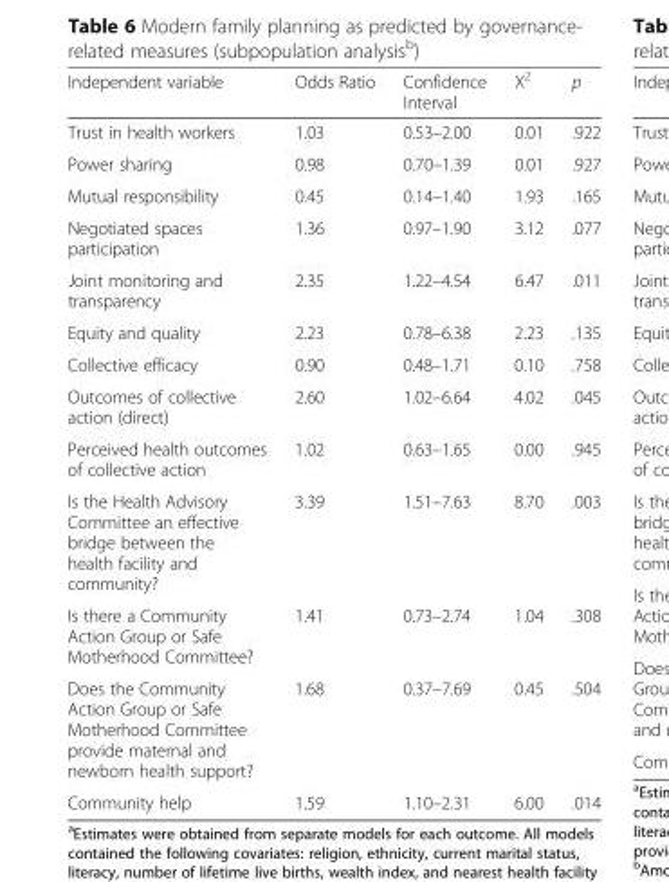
<table><thead><tr><td>Independent variable</td><td>Odds Ratio</td><td>Confidence Interval</td><td>Χ<sup>2</sup></td><td>p</td></tr></thead><tbody><tr><td>Trust in health workers</td><td>1.03</td><td>0.53–2.00</td><td>0.01</td><td>.922</td></tr><tr><td>Power sharing</td><td>0.98</td><td>0.70–1.39</td><td>0.01</td><td>.927</td></tr><tr><td>Mutual responsibility</td><td>0.45</td><td>0.14–1.40</td><td>1.93</td><td>.165</td></tr><tr><td>Negotiated spaces participation</td><td>1.36</td><td>0.97–1.90</td><td>3.12</td><td>.077</td></tr><tr><td>Joint monitoring and transparency</td><td>2.35</td><td>1.22–4.54</td><td>6.47</td><td>.011</td></tr><tr><td>Equity and quality</td><td>2.23</td><td>0.78–6.38</td><td>2.23</td><td>.135</td></tr><tr><td>Collective efficacy</td><td>0.90</td><td>0.48–1.71</td><td>0.10</td><td>.758</td></tr><tr><td>Outcomes of collective action (direct)</td><td>2.60</td><td>1.02–6.64</td><td>4.02</td><td>.045</td></tr><tr><td>Perceived health outcomes of collective action</td><td>1.02</td><td>0.63–1.65</td><td>0.00</td><td>.945</td></tr><tr><td>Is the Health Advisory Committee an effective bridge between the health facility and community?</td><td>3.39</td><td>1.51–7.63</td><td>8.70</td><td>.003</td></tr><tr><td>Is there a Community Action Group or Safe Motherhood Committee?</td><td>1.41</td><td>0.73–2.74</td><td>1.04</td><td>.308</td></tr><tr><td>Does the Community Action Group or Safe Motherhood Committee provide maternal and newborn health support?</td><td>1.68</td><td>0.37–7.69</td><td>0.45</td><td>.504</td></tr><tr><td>Community help</td><td>1.59</td><td>1.10–2.31</td><td>6.00</td><td>.014</td></tr></tbody></table>